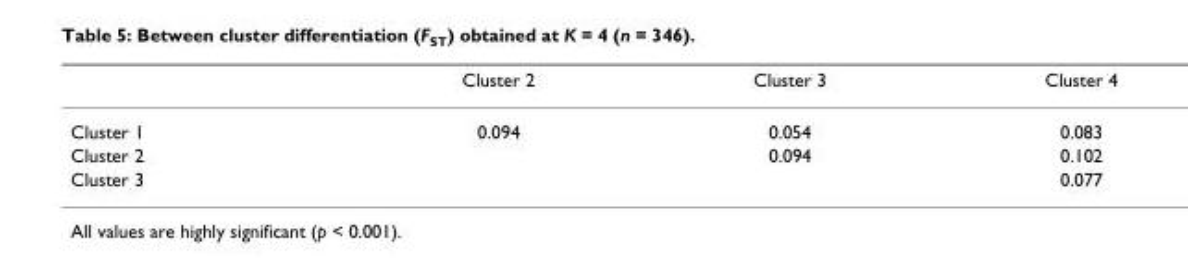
<table><thead><tr><td></td><td>Cluster 2</td><td>Cluster 3</td><td>Cluster 4</td></tr></thead><tbody><tr><td>Cluster 1</td><td>0.094</td><td>0.054</td><td>0.083</td></tr><tr><td>Cluster 2</td><td></td><td>0.094</td><td>0.102</td></tr><tr><td>Cluster 3</td><td></td><td></td><td>0.077</td></tr></tbody></table>